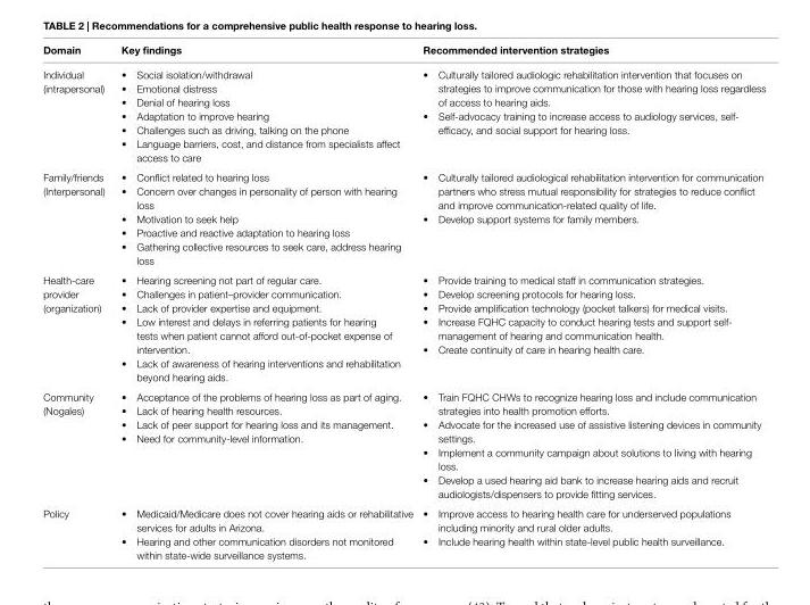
<table><thead><tr><td>Domain</td><td>Key findings</td><td>recommended intervention strategies</td></tr></thead><tbody><tr><td>Individual (intrapersonal)</td><td>• Social isolation/withdrawal • Emotional distress • Denial of hearing loss • Adaptation to improve hearing • Challenges such as driving, talking on the phone • Language barriers, cost, and distance from specialists affect access to care</td><td>• Culturally tailored audiologic rehabilitation intervention that focuses on strategies to improve communication for those with hearing loss regardless of access to hearing aids. • Self-advocacy training to increase access to audiology services, self- efficacy, and social support for hearing loss.</td></tr><tr><td>Family/friends (Interpersonal)</td><td>• Conflict related to hearing loss • Concern over changes in personality of person with hearing loss • Motivation to seek help • Proactive and reactive adaptation to hearing loss • Gathering collective resources to seek care, address hearing loss</td><td>• Culturally tailored audiological rehabilitation intervention for communication partners who stress mutual responsibility for strategies to reduce conflict and improve communication-related quality of life. • Develop support systems for family members.</td></tr><tr><td>Health-care provider (organization)</td><td>• Hearing screening not part of regular care. • Challenges in patient–provider communication. • Lack of provider expertise and equipment. • Low interest and delays in referring patients for hearing tests when patient cannot afford out-of-pocket expense of intervention. • Lack of awareness of hearing interventions and rehabilitation beyond hearing aids.</td><td>• Provide training to medical staff in communication strategies. • Develop screening protocols for hearing loss. • Provide amplification technology (pocket talkers) for medical visits. • Increase FQHC capacity to conduct hearing tests and support self- management of hearing and communication health. • Create continuity of care in hearing health care.</td></tr><tr><td>Community (Nogales)</td><td>• Acceptance of the problems of hearing loss as part of aging. • Lack of hearing health resources. • Lack of peer support for hearing loss and its management. • Need for community-level information.</td><td>• Train FQHC CHWs to recognize hearing loss and include communication strategies into health promotion efforts. • Advocate for the increased use of assistive listening devices in community settings. • Implement a community campaign about solutions to living with hearing loss. • Develop a used hearing aid bank to increase hearing aids and recruit audiologists/dispensers to provide fitting services.</td></tr><tr><td>Policy</td><td>• Medicaid/Medicare does not cover hearing aids or rehabilitative services for adults in Arizona. • Hearing and other communication disorders not monitored within state-wide surveillance systems.</td><td>• Improve access to hearing health care for underserved populations including minority and rural older adults. • Include hearing health within state-level public health surveillance.</td></tr></tbody></table>